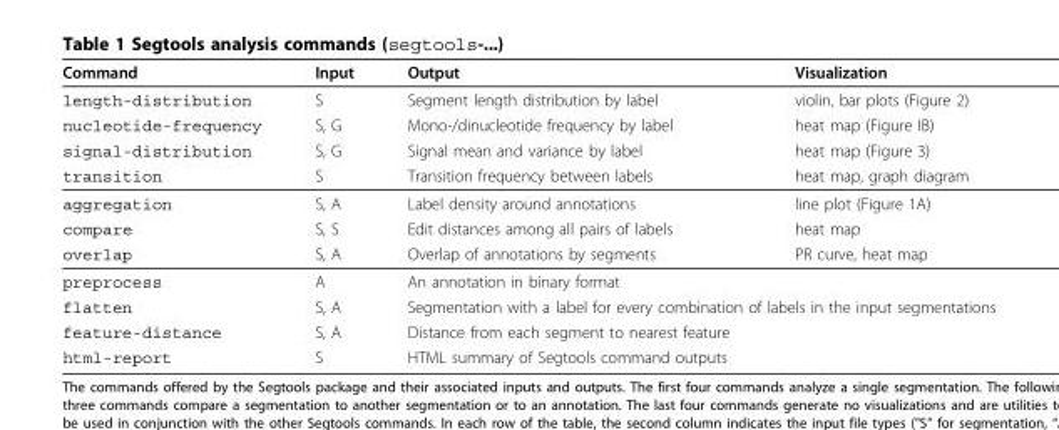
<table><thead><tr><td>Command</td><td>Input</td><td>Output</td><td>Visualization</td></tr></thead><tbody><tr><td>length-distribution</td><td>S</td><td>Segment length distribution by label</td><td>violin, bar plots (Figure 2)</td></tr><tr><td>nucleotide-frequency</td><td>S, G</td><td>Mono-/dinucleotide frequency by label</td><td>heat map (Figure IB)</td></tr><tr><td>signal-distribution</td><td>S, G</td><td>Signal mean and variance by label</td><td>heat map (Figure 3)</td></tr><tr><td>transition</td><td>S</td><td>Transition frequency between labels</td><td>heat map, graph diagram</td></tr><tr><td>aggregation</td><td>S, A</td><td>Label density around annotations</td><td>line plot (Figure 1A)</td></tr><tr><td>compare</td><td>S, S</td><td>Edit distances among all pairs of labels</td><td>heat map</td></tr><tr><td>overlap</td><td>S, A</td><td>Overlap of annotations by segments</td><td>PR curve, heat map</td></tr><tr><td>preprocess</td><td>A</td><td colspan="2">An annotation in binary format</td></tr><tr><td>flatten</td><td>S, A</td><td colspan="2">Segmentation with a label for every combination of labels in the input segmentations</td></tr><tr><td>feature-distance</td><td>S, A</td><td colspan="2">Distance from each segment to nearest feature</td></tr><tr><td>html-report</td><td>S</td><td colspan="2">HTML summary of Segtools command outputs</td></tr></tbody></table>